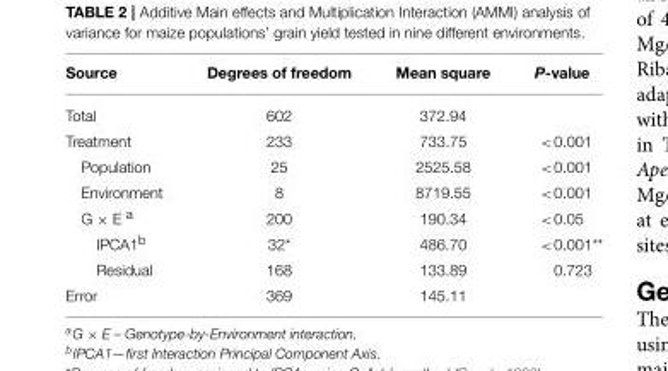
<table><thead><tr><td>Source</td><td>Degrees of freedom</td><td>Mean square</td><td>P-value</td></tr></thead><tbody><tr><td>Total</td><td>602</td><td>372.94</td><td></td></tr><tr><td>Treatment</td><td>233</td><td>733.75</td><td>&lt;0.001</td></tr><tr><td>Population</td><td>25</td><td>2525.58</td><td>&lt;0.001</td></tr><tr><td>Environment</td><td>8</td><td>8719.55</td><td>&lt;0.001</td></tr><tr><td>G × E <sup>a</sup></td><td>200</td><td>190.34</td><td>&lt;0.05</td></tr><tr><td>IPCA1<sup>b</sup></td><td>32*</td><td>486.70</td><td>&lt;0.001**</td></tr><tr><td>Residual</td><td>168</td><td>133.89</td><td>0.723</td></tr><tr><td>Error</td><td>369</td><td>145.11</td><td></td></tr></tbody></table>